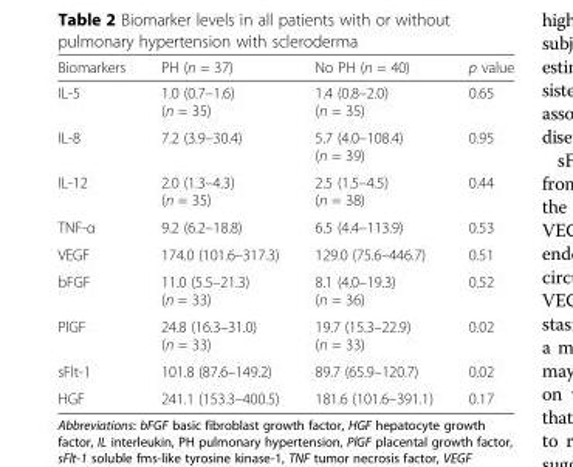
<table><thead><tr><td>Biomarkers</td><td>PH (n = 37)</td><td>No PH (n = 40)</td><td>p value</td></tr></thead><tbody><tr><td>IL-5</td><td>1.0 (0.7–1.6) (n = 35)</td><td>1.4 (0.8–2.0) (n = 35)</td><td>0.65</td></tr><tr><td>IL-8</td><td>7.2 (3.9–30.4)</td><td>5.7 (4.0–108.4) (n = 39)</td><td>0.95</td></tr><tr><td>IL-12</td><td>2.0 (1.3–4.3) (n = 35)</td><td>2.5 (1.5–4.5) (n = 38)</td><td>0.44</td></tr><tr><td>TNF-α</td><td>9.2 (6.2–18.8)</td><td>6.5 (4.4–113.9)</td><td>0.53</td></tr><tr><td>VEGF</td><td>174.0 (101.6–317.3)</td><td>129.0 (75.6–446.7)</td><td>0.51</td></tr><tr><td>bFGF</td><td>11.0 (5.5–21.3) (n = 33)</td><td>8.1 (4.0–19.3) (n = 36)</td><td>0.52</td></tr><tr><td>PlGF</td><td>24.8 (16.3–31.0) (n = 33)</td><td>19.7 (15.3–22.9) (n = 33)</td><td>0.02</td></tr><tr><td>sFlt-1</td><td>101.8 (87.6–149.2)</td><td>89.7 (65.9–120.7)</td><td>0.02</td></tr><tr><td>HGF</td><td>241.1 (153.3–400.5)</td><td>181.6 (101.6–391.1)</td><td>0.17</td></tr></tbody></table>